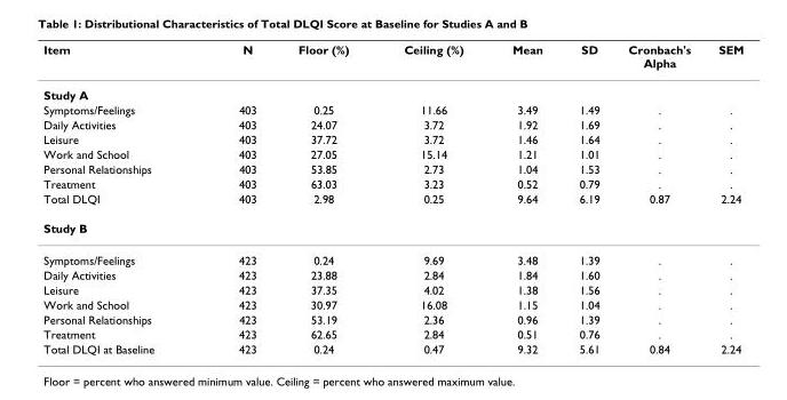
<table><thead><tr><td>Item</td><td>N</td><td>Floor (%)</td><td>Ceiling (%)</td><td>Mean</td><td>SD</td><td>Cronbach&#x27;s Alpha</td><td>SEM</td></tr></thead><tbody><tr><td colspan="8">Study A</td></tr><tr><td>Symptoms/Feelings</td><td>403</td><td>0.25</td><td>11.66</td><td>3.49</td><td>1.49</td><td>.</td><td>.</td></tr><tr><td>Daily Activities</td><td>403</td><td>24.07</td><td>3.72</td><td>1.92</td><td>1.69</td><td>.</td><td>.</td></tr><tr><td>Leisure</td><td>403</td><td>37.72</td><td>3.72</td><td>1.46</td><td>1.64</td><td>.</td><td>.</td></tr><tr><td>Work and School</td><td>403</td><td>27.05</td><td>15.14</td><td>1.21</td><td>1.01</td><td>.</td><td>.</td></tr><tr><td>Personal Relationships</td><td>403</td><td>53.85</td><td>2.73</td><td>1.04</td><td>1.53</td><td>.</td><td>.</td></tr><tr><td>Treatment</td><td>403</td><td>63.03</td><td>3.23</td><td>0.52</td><td>0.79</td><td>.</td><td>.</td></tr><tr><td>Total DLQI</td><td>403</td><td>2.98</td><td>0.25</td><td>9.64</td><td>6.19</td><td>0.87</td><td>2.24</td></tr><tr><td colspan="8">Study B</td></tr><tr><td>Symptoms/Feelings</td><td>423</td><td>0.24</td><td>9.69</td><td>3.48</td><td>1.39</td><td>.</td><td>.</td></tr><tr><td>Daily Activities</td><td>423</td><td>23.88</td><td>2.84</td><td>1.84</td><td>1.60</td><td>.</td><td>.</td></tr><tr><td>Leisure</td><td>423</td><td>37.35</td><td>4.02</td><td>1.38</td><td>1.56</td><td>.</td><td>.</td></tr><tr><td>Work and School</td><td>423</td><td>30.97</td><td>16.08</td><td>1.15</td><td>1.04</td><td>.</td><td>.</td></tr><tr><td>Personal Relationships</td><td>423</td><td>53.19</td><td>2.36</td><td>0.96</td><td>1.39</td><td>.</td><td>.</td></tr><tr><td>Treatment</td><td>423</td><td>62.65</td><td>2.84</td><td>0.51</td><td>0.76</td><td>.</td><td>.</td></tr><tr><td>Total DLQI at Baseline</td><td>423</td><td>0.24</td><td>0.47</td><td>9.32</td><td>5.61</td><td>0.84</td><td>2.24</td></tr></tbody></table>